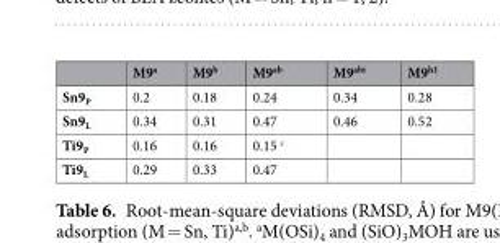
<table><thead><tr><td></td><td>M9<sup>a</sup></td><td>M9<sup>b</sup></td><td>M9<sup>ab</sup></td><td>M9<sup>abi</sup></td><td>M9<sup>h1</sup></td></tr></thead><tbody><tr><td>Sn9<sub>P</sub></td><td>0.2</td><td>0.18</td><td>0.24</td><td>0.34</td><td>0.28</td></tr><tr><td>Sn9<sub>L</sub></td><td>0.34</td><td>0.31</td><td>0.47</td><td>0.46</td><td>0.52</td></tr><tr><td>Ti9<sub>P</sub></td><td>0.16</td><td>0.16</td><td>0.15 <sup>c</sup></td><td></td><td></td></tr><tr><td>Ti9<sub>L</sub></td><td>0.29</td><td>0.33</td><td>0.47</td><td></td><td></td></tr></tbody></table>